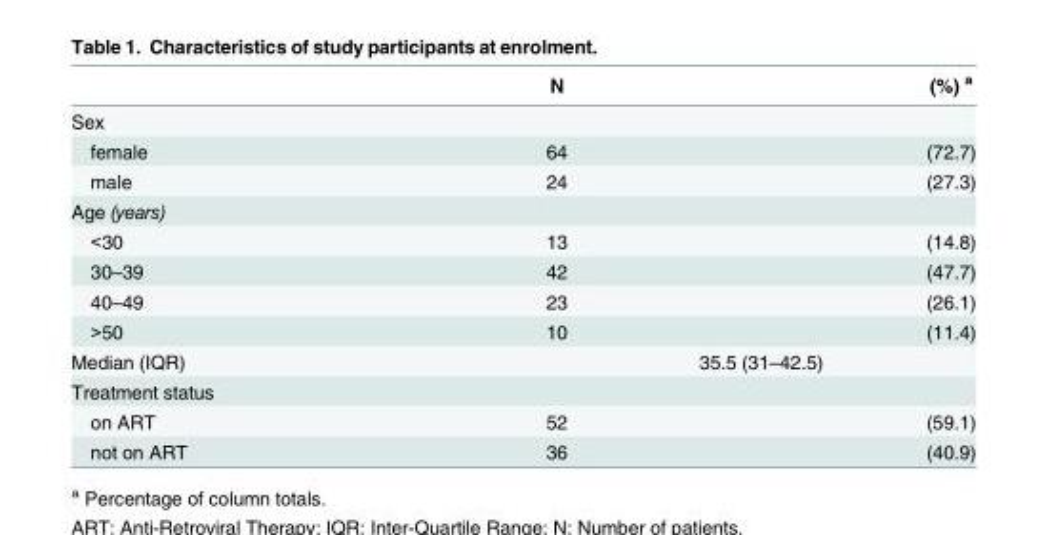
<table><thead><tr><td></td><td>N</td><td>(%) <sup>a</sup></td></tr></thead><tbody><tr><td colspan="3">Sex</td></tr><tr><td>female</td><td>64</td><td>(72.7)</td></tr><tr><td>male</td><td>24</td><td>(27.3)</td></tr><tr><td colspan="3">Age (years)</td></tr><tr><td>&lt;30</td><td>13</td><td>(14.8)</td></tr><tr><td>30–39</td><td>42</td><td>(47.7)</td></tr><tr><td>40–49</td><td>23</td><td>(26.1)</td></tr><tr><td>&gt;50</td><td>10</td><td>(11.4)</td></tr><tr><td>Median (IQR)</td><td colspan="2">35.5 (31–42.5)</td></tr><tr><td colspan="3">Treatment status</td></tr><tr><td>on ART</td><td>52</td><td>(59.1)</td></tr><tr><td>not on ART</td><td>36</td><td>(40.9)</td></tr></tbody></table>